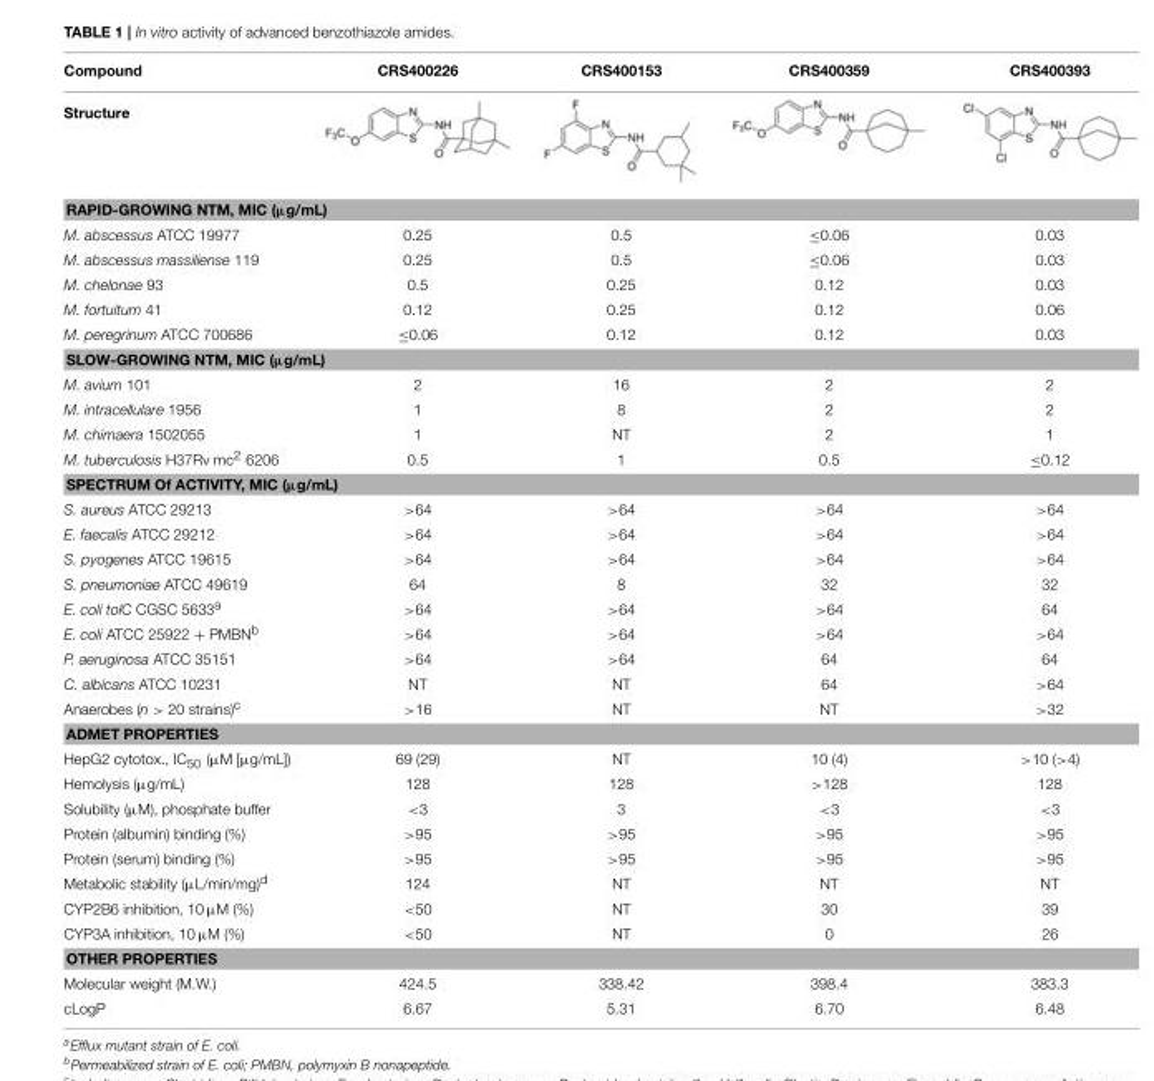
<table><thead><tr><td>Compound</td><td>CRS400226</td><td>CRS400153</td><td>CRS400359</td><td>CRS400393</td></tr></thead><tbody><tr><td colspan="5">Structure</td></tr><tr><td colspan="5">RAPID-GROWING NTM, MIC (µg/mL)</td></tr><tr><td>M. abscessus ATCC 19977</td><td>0.25</td><td>0.5</td><td>≤0.06</td><td>0.03</td></tr><tr><td>M. abscessus massiliense 119</td><td>0.25</td><td>0.5</td><td>≤0.06</td><td>0.03</td></tr><tr><td>M. chelonae 93</td><td>0.5</td><td>0.25</td><td>0.12</td><td>0.03</td></tr><tr><td>M. fortuitum 41</td><td>0.12</td><td>0.25</td><td>0.12</td><td>0.06</td></tr><tr><td>M. peregrinum ATCC 700686</td><td>≤0.06</td><td>0.12</td><td>0.12</td><td>0.03</td></tr><tr><td colspan="5">SLOW-GROWING NTM, MIC (µg/mL)</td></tr><tr><td>M. avium 101</td><td>2</td><td>16</td><td>2</td><td>2</td></tr><tr><td>M. intracellulare 1956</td><td>1</td><td>8</td><td>2</td><td>2</td></tr><tr><td>M. chimaera 1502055</td><td>1</td><td>NT</td><td>2</td><td>1</td></tr><tr><td>M. tuberculosis H37Rv mc<sup>2</sup> 6206</td><td>0.5</td><td>1</td><td>0.5</td><td>≤0.12</td></tr><tr><td colspan="5">SPECTRUM Of ACTIVITY, MIC (µg/mL)</td></tr><tr><td>S. aureus ATCC 29213</td><td>&gt;64</td><td>&gt;64</td><td>&gt;64</td><td>&gt;64</td></tr><tr><td>E. faecalis ATCC 29212</td><td>&gt;64</td><td>&gt;64</td><td>&gt;64</td><td>&gt;64</td></tr><tr><td>S. pyogenes ATCC 19615</td><td>&gt;64</td><td>&gt;64</td><td>&gt;64</td><td>&gt;64</td></tr><tr><td>S. pneumoniae ATCC 49619</td><td>64</td><td>8</td><td>32</td><td>32</td></tr><tr><td>E. coli tolC CGSC 5633<sup>a</sup></td><td>&gt;64</td><td>&gt;64</td><td>&gt;64</td><td>64</td></tr><tr><td>E. coli ATCC 25922 + PMBN<sup>b</sup></td><td>&gt;64</td><td>&gt;64</td><td>&gt;64</td><td>&gt;64</td></tr><tr><td>P. aeruginosa ATCC 35151</td><td>&gt;64</td><td>&gt;64</td><td>64</td><td>64</td></tr><tr><td>C. albicans ATCC 10231</td><td>NT</td><td>NT</td><td>64</td><td>&gt;64</td></tr><tr><td>Anaerobes (n &gt; 20 strains)<sup>c</sup></td><td>&gt;16</td><td>NT</td><td>NT</td><td>&gt;32</td></tr><tr><td colspan="5">ADMET PROPERTIES</td></tr><tr><td>HepG2 cytotox., IC<sub>50</sub> (µM [µg/mL])</td><td>69 (29)</td><td>NT</td><td>10 (4)</td><td>&gt;10 (&gt;4)</td></tr><tr><td>Hemolysis (µg/mL)</td><td>128</td><td>128</td><td>&gt;128</td><td>128</td></tr><tr><td>Solubility (µM), phosphate buffer</td><td>&lt;3</td><td>3</td><td>&lt;3</td><td>&lt;3</td></tr><tr><td>Protein (albumin) binding (%)</td><td>&gt;95</td><td>&gt;95</td><td>&gt;95</td><td>&gt;95</td></tr><tr><td>Protein (serum) binding (%)</td><td>&gt;95</td><td>&gt;95</td><td>&gt;95</td><td>&gt;95</td></tr><tr><td>Metabolic stability (µL/min/mg)<sup>d</sup></td><td>124</td><td>NT</td><td>NT</td><td>NT</td></tr><tr><td>CYP2B6 inhibition, 10 µM (%)</td><td>&lt;50</td><td>NT</td><td>30</td><td>39</td></tr><tr><td>CYP3A inhibition, 10 µM (%)</td><td>&lt;50</td><td>NT</td><td>0</td><td>26</td></tr><tr><td colspan="5">OTHER PROPERTIES</td></tr><tr><td>Molecular weight (M.W.)</td><td>424.5</td><td>338.42</td><td>398.4</td><td>383.3</td></tr><tr><td>cLogP</td><td>6.67</td><td>5.31</td><td>6.70</td><td>6.48</td></tr></tbody></table>